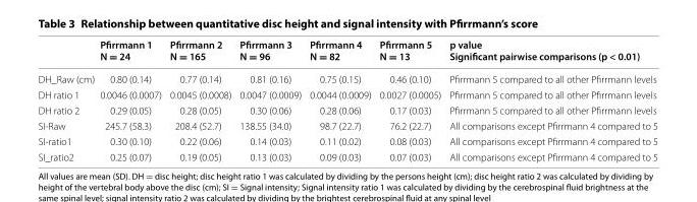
<table><thead><tr><td></td><td>Pfirrmann 1 N = 24</td><td>Pfirrmann 2 N = 165</td><td>Pfirrmann 3 N = 96</td><td>Pfirrmann 4 N = 82</td><td>Pfirrmann 5 N = 13</td><td>p value Significant pairwise comparisons (p &lt; 0.01)</td></tr></thead><tbody><tr><td>DH_Raw (cm)</td><td>0.80 (0.14)</td><td>0.77 (0.14)</td><td>0.81 (0.16)</td><td>0.75 (0.15)</td><td>0.46 (0.10)</td><td>Pfirrmann 5 compared to all other Pfirrmann levels</td></tr><tr><td>DH ratio 1</td><td>0.0046 (0.0007)</td><td>0.0045 (0.0008)</td><td>0.0047 (0.0009)</td><td>0.0044 (0.0009)</td><td>0.0027 (0.0005)</td><td>Pfirrmann 5 compared to all other Pfirrmann levels</td></tr><tr><td>DH ratio 2</td><td>0.29 (0.05)</td><td>0.28 (0.05)</td><td>0.30 (0.06)</td><td>0.28 (0.06)</td><td>0.17 (0.03)</td><td>Pfirrmann 5 compared to all other Pfirrmann levels</td></tr><tr><td>SI-Raw</td><td>245.7 (58.3)</td><td>208.4 (52.7)</td><td>138.55 (34.0)</td><td>98.7 (22.7)</td><td>76.2 (22.7)</td><td>All comparisons except Pfirrmann 4 compared to 5</td></tr><tr><td>SI-ratio1</td><td>0.30 (0.10)</td><td>0.22 (0.06)</td><td>0.14 (0.03)</td><td>0.11 (0.02)</td><td>0.08 (0.03)</td><td>All comparisons except Pfirrmann 4 compared to 5</td></tr><tr><td>SI_ratio2</td><td>0.25 (0.07)</td><td>0.19 (0.05)</td><td>0.13 (0.03)</td><td>0.09 (0.03)</td><td>0.07 (0.03)</td><td>All comparisons except Pfirrmann 4 compared to 5</td></tr></tbody></table>